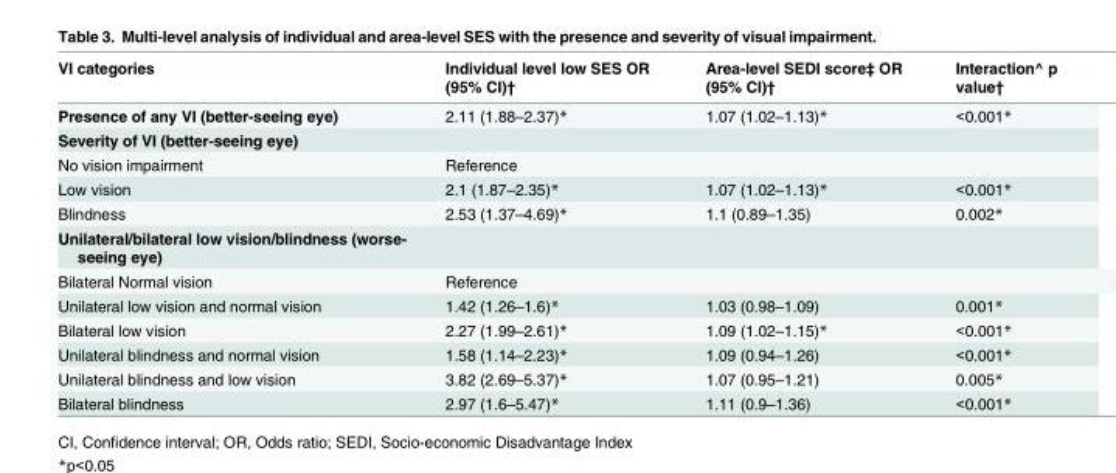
<table><thead><tr><td>VI categories</td><td>Individual level low SES OR (95% CI)†</td><td>Area-level SEDI score‡ OR (95% CI)†</td><td>Interaction^ p value†</td></tr></thead><tbody><tr><td>Presence of any VI (better-seeing eye)</td><td>2.11 (1.88–2.37)*</td><td>1.07 (1.02–1.13)*</td><td>&lt;0.001*</td></tr><tr><td colspan="4">Severity of VI (better-seeing eye)</td></tr><tr><td>No vision impairment</td><td>Reference</td><td></td><td></td></tr><tr><td>Low vision</td><td>2.1 (1.87–2.35)*</td><td>1.07 (1.02–1.13)*</td><td>&lt;0.001*</td></tr><tr><td>Blindness</td><td>2.53 (1.37–4.69)*</td><td>1.1 (0.89–1.35)</td><td>0.002*</td></tr><tr><td colspan="4">Unilateral/bilateral low vision/blindness (worse- seeing eye)</td></tr><tr><td>Bilateral Normal vision</td><td colspan="3">Reference</td></tr><tr><td>Unilateral low vision and normal vision</td><td>1.42 (1.26–1.6)*</td><td>1.03 (0.98–1.09)</td><td>0.001*</td></tr><tr><td>Bilateral low vision</td><td>2.27 (1.99–2.61)*</td><td>1.09 (1.02–1.15)*</td><td>&lt;0.001*</td></tr><tr><td>Unilateral blindness and normal vision</td><td>1.58 (1.14–2.23)*</td><td>1.09 (0.94–1.26)</td><td>&lt;0.001*</td></tr><tr><td>Unilateral blindness and low vision</td><td>3.82 (2.69–5.37)*</td><td>1.07 (0.95–1.21)</td><td>0.005*</td></tr><tr><td>Bilateral blindness</td><td>2.97 (1.6–5.47)*</td><td>1.11 (0.9–1.36)</td><td>&lt;0.001*</td></tr></tbody></table>